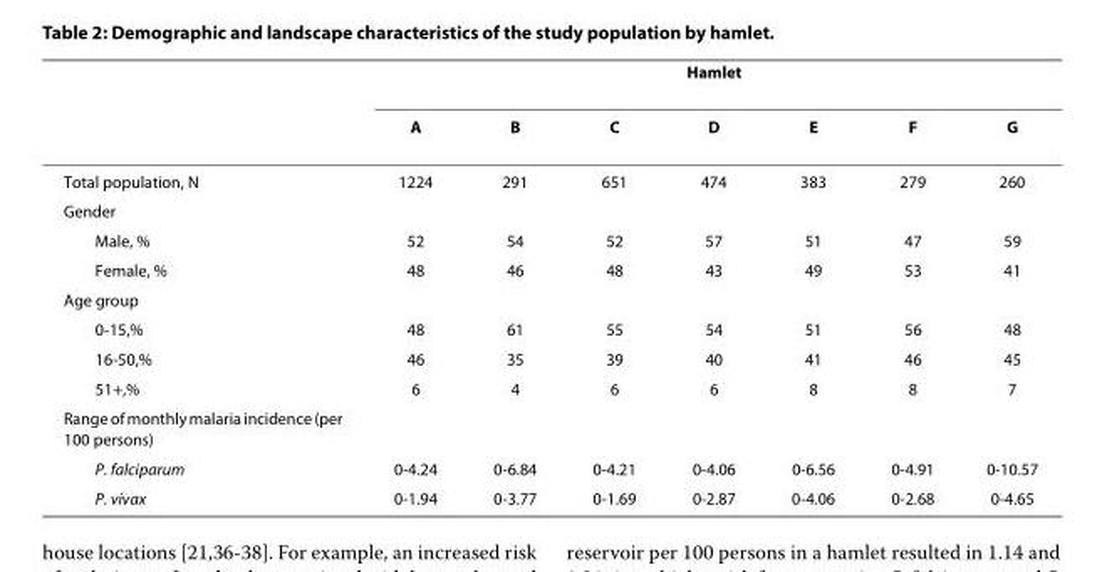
<table><thead><tr><td rowspan="2"></td><td colspan="7">Hamlet</td></tr><tr><td>A</td><td>B</td><td>C</td><td>D</td><td>E</td><td>F</td><td>G</td></tr></thead><tbody><tr><td>Total population, N</td><td>1224</td><td>291</td><td>651</td><td>474</td><td>383</td><td>279</td><td>260</td></tr><tr><td colspan="8">Gender</td></tr><tr><td>Male, %</td><td>52</td><td>54</td><td>52</td><td>57</td><td>51</td><td>47</td><td>59</td></tr><tr><td>Female, %</td><td>48</td><td>46</td><td>48</td><td>43</td><td>49</td><td>53</td><td>41</td></tr><tr><td colspan="8">Age group</td></tr><tr><td>0-15,%</td><td>48</td><td>61</td><td>55</td><td>54</td><td>51</td><td>56</td><td>48</td></tr><tr><td>16-50,%</td><td>46</td><td>35</td><td>39</td><td>40</td><td>41</td><td>46</td><td>45</td></tr><tr><td>51+,%</td><td>6</td><td>4</td><td>6</td><td>6</td><td>8</td><td>8</td><td>7</td></tr><tr><td colspan="8">Range of monthly malaria incidence (per 100 persons)</td></tr><tr><td>P. falciparum</td><td>0-4.24</td><td>0-6.84</td><td>0-4.21</td><td>0-4.06</td><td>0-6.56</td><td>0-4.91</td><td>0-10.57</td></tr><tr><td>P. vivax</td><td>0-1.94</td><td>0-3.77</td><td>0-1.69</td><td>0-2.87</td><td>0-4.06</td><td>0-2.68</td><td>0-4.65</td></tr></tbody></table>